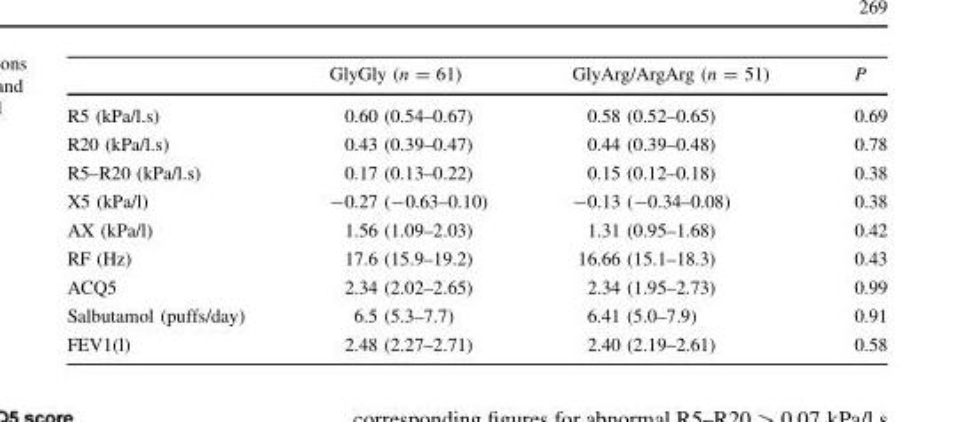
<table><thead><tr><td></td><td>GlyGly (n = 61)</td><td>GlyArg/ArgArg (n = 51)</td><td>P</td></tr></thead><tbody><tr><td>R5 (kPa/l.s)</td><td>0.60 (0.54–0.67)</td><td>0.58 (0.52–0.65)</td><td>0.69</td></tr><tr><td>R20 (kPa/l.s)</td><td>0.43 (0.39–0.47)</td><td>0.44 (0.39–0.48)</td><td>0.78</td></tr><tr><td>R5–R20 (kPa/l.s)</td><td>0.17 (0.13–0.22)</td><td>0.15 (0.12–0.18)</td><td>0.38</td></tr><tr><td>X5 (kPa/l)</td><td>-0.27 (-0.63–0.10)</td><td>-0.13 (-0.34–0.08)</td><td>0.38</td></tr><tr><td>AX (kPa/l)</td><td>1.56 (1.09–2.03)</td><td>1.31 (0.95–1.68)</td><td>0.42</td></tr><tr><td>RF (Hz)</td><td>17.6 (15.9–19.2)</td><td>16.66 (15.1–18.3)</td><td>0.43</td></tr><tr><td>ACQ5</td><td>2.34 (2.02–2.65)</td><td>2.34 (1.95–2.73)</td><td>0.99</td></tr><tr><td>Salbutamol (puffs/day)</td><td>6.5 (5.3–7.7)</td><td>6.41 (5.0–7.9)</td><td>0.91</td></tr><tr><td>FEV1(l)</td><td>2.48 (2.27–2.71)</td><td>2.40 (2.19–2.61)</td><td>0.58</td></tr></tbody></table>